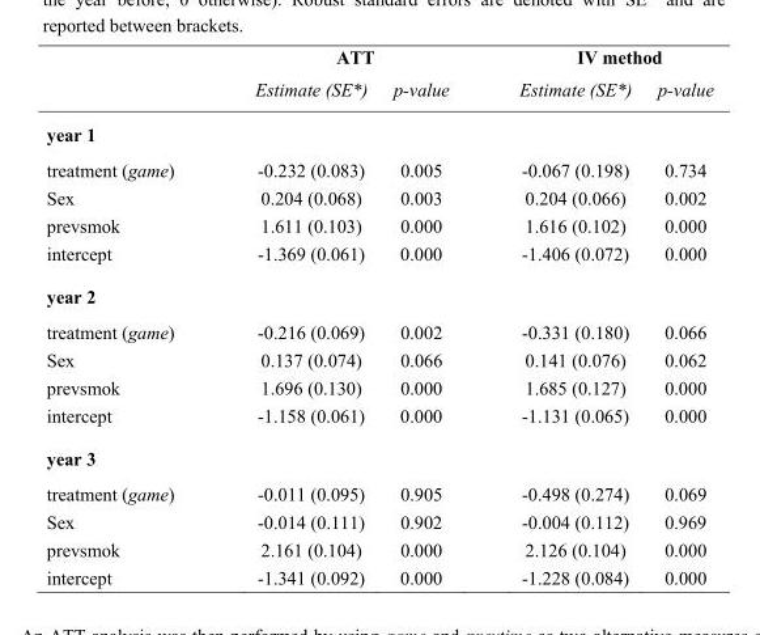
<table><thead><tr><td rowspan="2"></td><td colspan="2">ATT</td><td colspan="2">IV method</td></tr><tr><td>Estimate (SE*)</td><td>p-value</td><td>Estimate (SE*)</td><td>p-value</td></tr></thead><tbody><tr><td colspan="5">year 1</td></tr><tr><td>treatment (game)</td><td>-0.232 (0.083)</td><td>0.005</td><td>-0.067 (0.198)</td><td>0.734</td></tr><tr><td>Sex</td><td>0.204 (0.068)</td><td>0.003</td><td>0.204 (0.066)</td><td>0.002</td></tr><tr><td>prevsmok</td><td>1.611 (0.103)</td><td>0.000</td><td>1.616 (0.102)</td><td>0.000</td></tr><tr><td>intercept</td><td>-1.369 (0.061)</td><td>0.000</td><td>-1.406 (0.072)</td><td>0.000</td></tr><tr><td colspan="5">year 2</td></tr><tr><td>treatment (game)</td><td>-0.216 (0.069)</td><td>0.002</td><td>-0.331 (0.180)</td><td>0.066</td></tr><tr><td>Sex</td><td>0.137 (0.074)</td><td>0.066</td><td>0.141 (0.076)</td><td>0.062</td></tr><tr><td>prevsmok</td><td>1.696 (0.130)</td><td>0.000</td><td>1.685 (0.127)</td><td>0.000</td></tr><tr><td>intercept</td><td>-1.158 (0.061)</td><td>0.000</td><td>-1.131 (0.065)</td><td>0.000</td></tr><tr><td colspan="5">year 3</td></tr><tr><td>treatment (game)</td><td>-0.011 (0.095)</td><td>0.905</td><td>-0.498 (0.274)</td><td>0.069</td></tr><tr><td>Sex</td><td>-0.014 (0.111)</td><td>0.902</td><td>-0.004 (0.112)</td><td>0.969</td></tr><tr><td>prevsmok</td><td>2.161 (0.104)</td><td>0.000</td><td>2.126 (0.104)</td><td>0.000</td></tr><tr><td>intercept</td><td>-1.341 (0.092)</td><td>0.000</td><td>-1.228 (0.084)</td><td>0.000</td></tr></tbody></table>